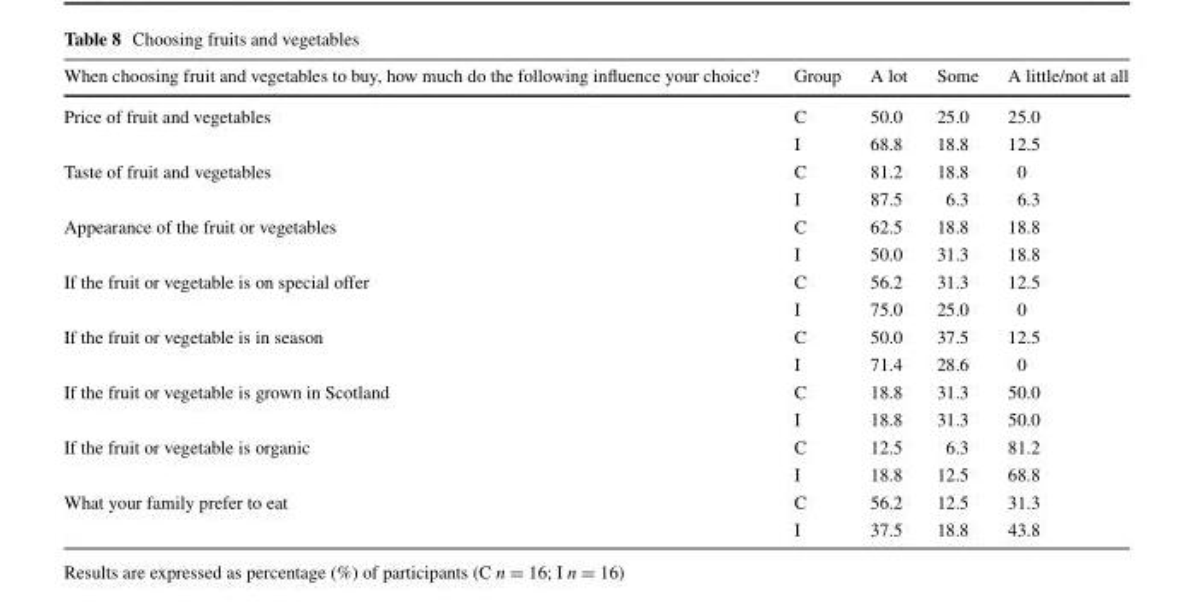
<table><thead><tr><td>When choosing fruit and vegetables to buy, how much do the following influence your choice?</td><td>Group</td><td>A lot</td><td>Some</td><td>A little/not at all</td></tr></thead><tbody><tr><td rowspan="2">Price of fruit and vegetables</td><td>C</td><td>50.0</td><td>25.0</td><td>25.0</td></tr><tr><td>I</td><td>68.8</td><td>18.8</td><td>12.5</td></tr><tr><td rowspan="2">Taste of fruit and vegetables</td><td>C</td><td>81.2</td><td>18.8</td><td>0</td></tr><tr><td>I</td><td>87.5</td><td>6.3</td><td>6.3</td></tr><tr><td rowspan="2">Appearance of the fruit or vegetables</td><td>C</td><td>62.5</td><td>18.8</td><td>18.8</td></tr><tr><td>I</td><td>50.0</td><td>31.3</td><td>18.8</td></tr><tr><td rowspan="2">If the fruit or vegetable is on special offer</td><td>C</td><td>56.2</td><td>31.3</td><td>12.5</td></tr><tr><td>I</td><td>75.0</td><td>25.0</td><td>0</td></tr><tr><td rowspan="2">If the fruit or vegetable is in season</td><td>C</td><td>50.0</td><td>37.5</td><td>12.5</td></tr><tr><td>I</td><td>71.4</td><td>28.6</td><td>0</td></tr><tr><td rowspan="2">If the fruit or vegetable is grown in Scotland</td><td>C</td><td>18.8</td><td>31.3</td><td>50.0</td></tr><tr><td>I</td><td>18.8</td><td>31.3</td><td>50.0</td></tr><tr><td rowspan="2">If the fruit or vegetable is organic</td><td>C</td><td>12.5</td><td>6.3</td><td>81.2</td></tr><tr><td>I</td><td>18.8</td><td>12.5</td><td>68.8</td></tr><tr><td rowspan="2">What your family prefer to eat</td><td>C</td><td>56.2</td><td>12.5</td><td>31.3</td></tr><tr><td>I</td><td>37.5</td><td>18.8</td><td>43.8</td></tr></tbody></table>